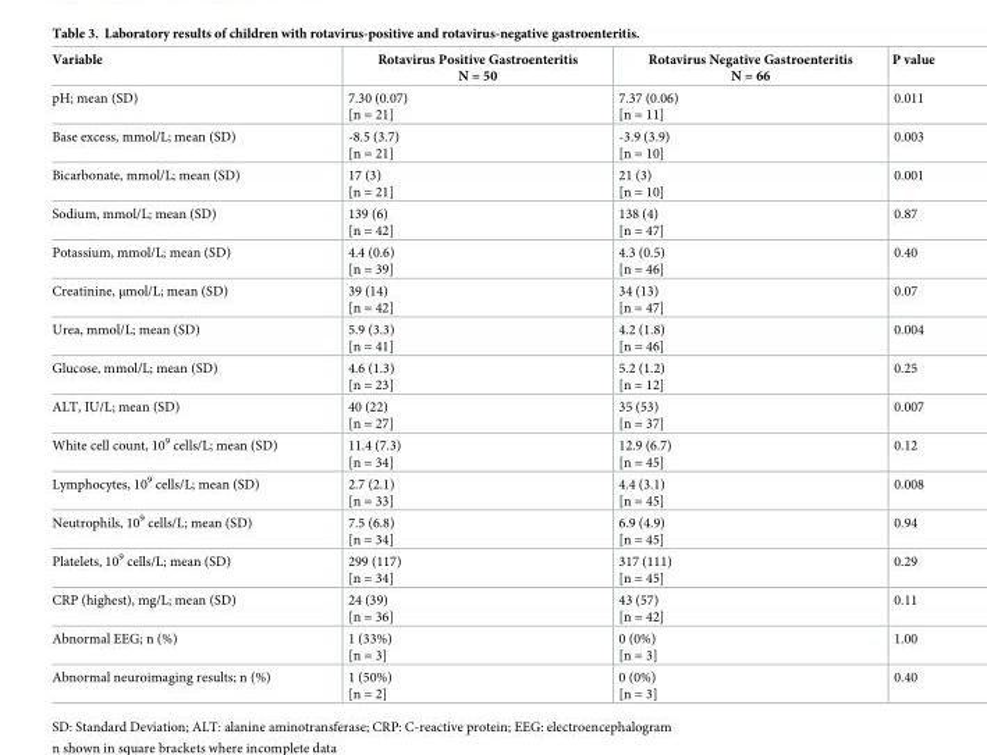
<table><thead><tr><td>Variable</td><td>Rotavirus Positive Gastroenteritis N = 50</td><td>Rotavirus Negative Gastroenteritis N = 66</td><td>P value</td></tr></thead><tbody><tr><td>pH; mean (SD)</td><td>7.30 (0.07) [n = 21]</td><td>7.37 (0.06) [n = 11]</td><td>0.011</td></tr><tr><td>Base excess, mmol/L; mean (SD)</td><td>-8.5 (3.7) [n = 21]</td><td>-3.9 (3.9) [n = 10]</td><td>0.003</td></tr><tr><td>Bicarbonate, mmol/L; mean (SD)</td><td>17 (3) [n = 21]</td><td>21 (3) [n = 10]</td><td>0.001</td></tr><tr><td>Sodium, mmol/L; mean (SD)</td><td>139 (6) [n = 42]</td><td>138 (4) [n = 47]</td><td>0.87</td></tr><tr><td>Potassium, mmol/L; mean (SD)</td><td>4.4 (0.6) [n = 39]</td><td>4.3 (0.5) [n = 46]</td><td>0.40</td></tr><tr><td>Creatinine, μmol/L; mean (SD)</td><td>39 (14) [n = 42]</td><td>34 (13) [n = 47]</td><td>0.07</td></tr><tr><td>Urea, mmol/L; mean (SD)</td><td>5.9 (3.3) [n = 41]</td><td>4.2 (1.8) [n = 46]</td><td>0.004</td></tr><tr><td>Glucose, mmol/L; mean (SD)</td><td>4.6 (1.3) [n = 23]</td><td>5.2 (1.2) [n = 12]</td><td>0.25</td></tr><tr><td>ALT, IU/L; mean (SD)</td><td>40 (22) [n = 27]</td><td>35 (53) [n = 37]</td><td>0.007</td></tr><tr><td>White cell count, 10<sup>9</sup> cells/L; mean (SD)</td><td>11.4 (7.3) [n = 34]</td><td>12.9 (6.7) [n = 45]</td><td>0.12</td></tr><tr><td>Lymphocytes, 10<sup>9</sup> cells/L; mean (SD)</td><td>2.7 (2.1) [n = 33]</td><td>4.4 (3.1) [n = 45]</td><td>0.008</td></tr><tr><td>Neutrophils, 10<sup>9</sup> cells/L; mean (SD)</td><td>7.5 (6.8) [n = 34]</td><td>6.9 (4.9) [n = 45]</td><td>0.94</td></tr><tr><td>Platelets, 10<sup>9</sup> cells/L; mean (SD)</td><td>299 (117) [n = 34]</td><td>317 (111) [n = 45]</td><td>0.29</td></tr><tr><td>CRP (highest), mg/L; mean (SD)</td><td>24 (39) [n = 36]</td><td>43 (57) [n = 42]</td><td>0.11</td></tr><tr><td>Abnormal EEG; n (%)</td><td>1 (33%) [n = 3]</td><td>0 (0%) [n = 3]</td><td>1.00</td></tr><tr><td>Abnormal neuroimaging results; n (%)</td><td>1 (50%) [n = 2]</td><td>0 (0%) [n = 3]</td><td>0.40</td></tr></tbody></table>